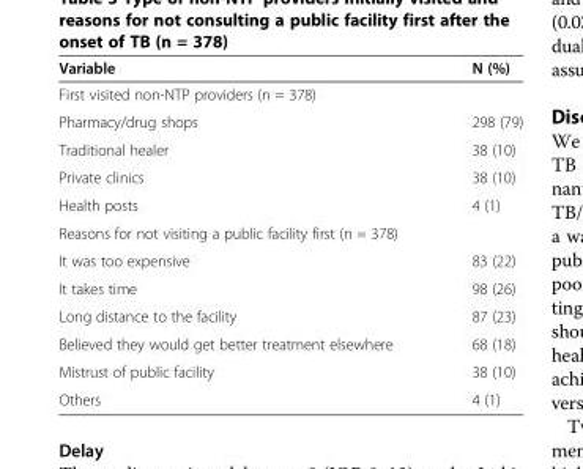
<table><thead><tr><td>Variable</td><td>N (%)</td></tr></thead><tbody><tr><td colspan="2">First visited non-NTP providers (n = 378)</td></tr><tr><td>Pharmacy/drug shops</td><td>298 (79)</td></tr><tr><td>Traditional healer</td><td>38 (10)</td></tr><tr><td>Private clinics</td><td>38 (10)</td></tr><tr><td>Health posts</td><td>4 (1)</td></tr><tr><td colspan="2">Reasons for not visiting a public facility first (n = 378)</td></tr><tr><td>It was too expensive</td><td>83 (22)</td></tr><tr><td>It takes time</td><td>98 (26)</td></tr><tr><td>Long distance to the facility</td><td>87 (23)</td></tr><tr><td>Believed they would get better treatment elsewhere</td><td>68 (18)</td></tr><tr><td>Mistrust of public facility</td><td>38 (10)</td></tr><tr><td>Others</td><td>4 (1)</td></tr></tbody></table>